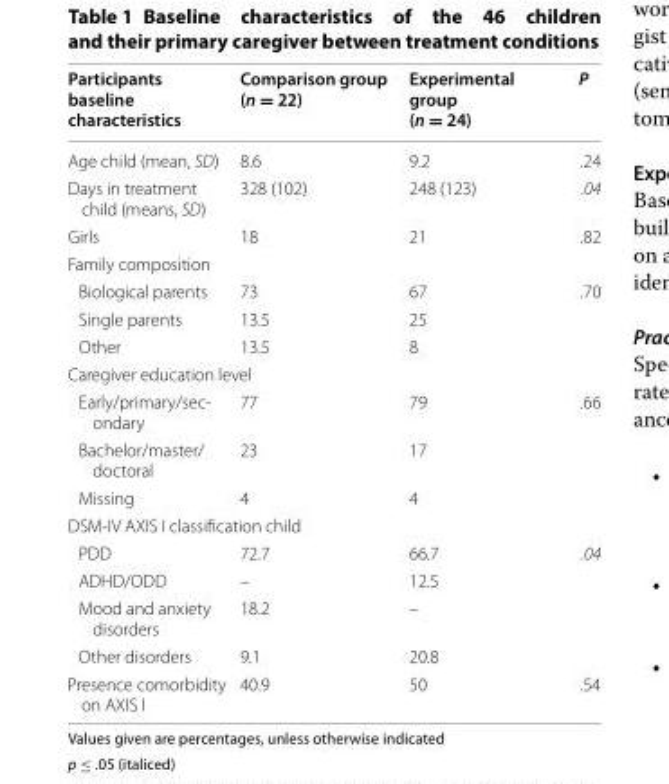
<table><thead><tr><td>Participants baseline characteristics</td><td>Comparison group (n = 22)</td><td>Experimental group (n = 24)</td><td>P</td></tr></thead><tbody><tr><td>Age child (mean, SD)</td><td>8.6</td><td>9.2</td><td>.24</td></tr><tr><td>Days in treatment child (means, SD)</td><td>328 (102)</td><td>248 (123)</td><td>.04</td></tr><tr><td>Girls</td><td>18</td><td>21</td><td>.82</td></tr><tr><td colspan="4">Family composition</td></tr><tr><td>Biological parents</td><td>73</td><td>67</td><td rowspan="3">.70</td></tr><tr><td>Single parents</td><td>13.5</td><td>25</td></tr><tr><td>Other</td><td>13.5</td><td>8</td></tr><tr><td colspan="4">Caregiver education level</td></tr><tr><td>Early/primary/sec- ondary</td><td>77</td><td>79</td><td rowspan="3">.66</td></tr><tr><td>Bachelor/master/ doctoral</td><td>23</td><td>17</td></tr><tr><td>Missing</td><td>4</td><td>4</td></tr><tr><td colspan="4">DSM-IV AXIS I classification child</td></tr><tr><td>PDD</td><td>72.7</td><td>66.7</td><td rowspan="4">.04</td></tr><tr><td>ADHD/ODD</td><td>–</td><td>12.5</td></tr><tr><td>Mood and anxiety disorders</td><td>18.2</td><td>–</td></tr><tr><td>Other disorders</td><td>9.1</td><td>20.8</td></tr><tr><td>Presence comorbidity on AXIS I</td><td>40.9</td><td>50</td><td>.54</td></tr></tbody></table>